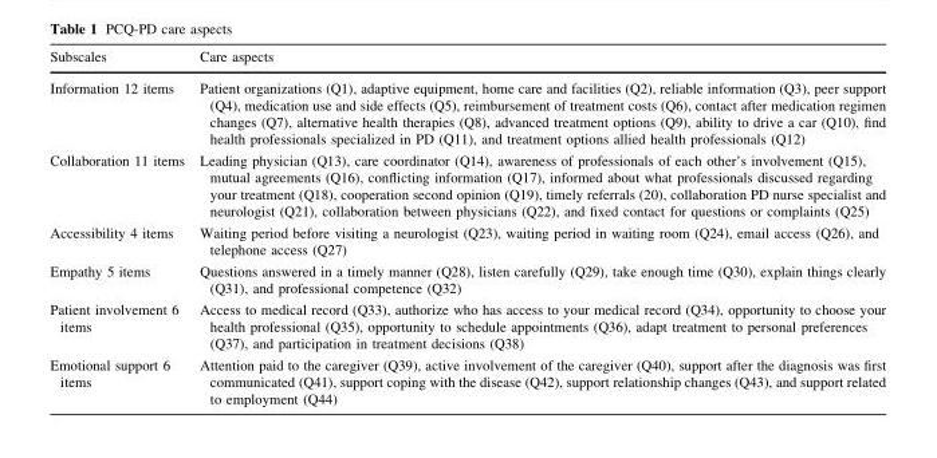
<table><thead><tr><td>Subscales</td><td>Care aspects</td></tr></thead><tbody><tr><td>Information 12 items</td><td>Patient organizations (Q1), adaptive equipment, home care and facilities (Q2), reliable information (Q3), peer support (Q4), medication use and side effects (Q5), reimbursement of treatment costs (Q6), contact after medication regimen changes (Q7), alternative health therapies (Q8), advanced treatment options (Q9), ability to drive a car (Q10), find health professionals specialized in PD (Q11), and treatment options allied health professionals (Q12)</td></tr><tr><td>Collaboration 11 items</td><td>Leading physician (Q13), care coordinator (Q14), awareness of professionals of each other’s involvement (Q15), mutual agreements (Q16), conflicting information (Q17), informed about what professionals discussed regarding your treatment (Q18), cooperation second opinion (Q19), timely referrals (20), collaboration PD nurse specialist and neurologist (Q21), collaboration between physicians (Q22), and fixed contact for questions or complaints (Q25)</td></tr><tr><td>Accessibility 4 items</td><td>Waiting period before visiting a neurologist (Q23), waiting period in waiting room (Q24), email access (Q26), and telephone access (Q27)</td></tr><tr><td>Empathy 5 items</td><td>Questions answered in a timely manner (Q28), listen carefully (Q29), take enough time (Q30), explain things clearly (Q31), and professional competence (Q32)</td></tr><tr><td>Patient involvement 6 items</td><td>Access to medical record (Q33), authorize who has access to your medical record (Q34), opportunity to choose your health professional (Q35), opportunity to schedule appointments (Q36), adapt treatment to personal preferences (Q37), and participation in treatment decisions (Q38)</td></tr><tr><td>Emotional support 6 items</td><td>Attention paid to the caregiver (Q39), active involvement of the caregiver (Q40), support after the diagnosis was first communicated (Q41), support coping with the disease (Q42), support relationship changes (Q43), and support related to employment (Q44)</td></tr></tbody></table>